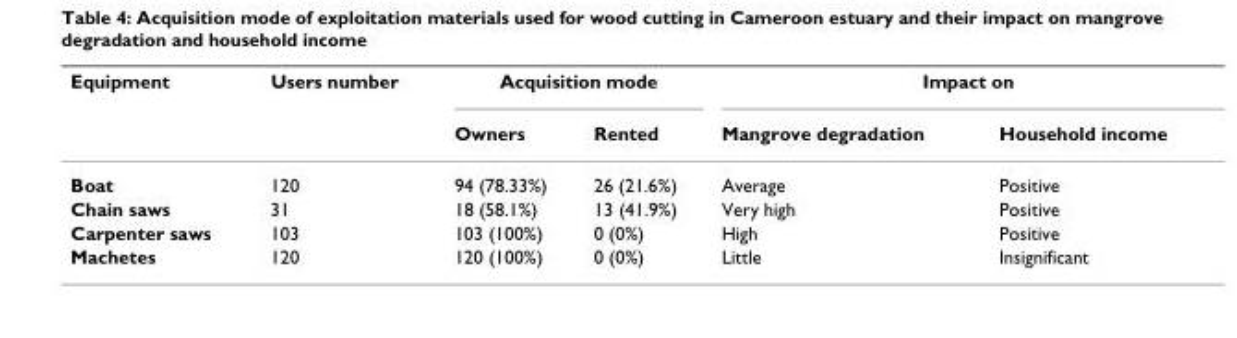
<table><thead><tr><td rowspan="2">Equipment</td><td rowspan="2">Users number</td><td colspan="2">Acquisition mode</td><td colspan="2">Impact on</td></tr><tr><td>Owners</td><td>Rented</td><td>Mangrove degradation</td><td>Household income</td></tr></thead><tbody><tr><td>Boat</td><td>120</td><td>94 (78.33%)</td><td>26 (21.6%)</td><td>Average</td><td>Positive</td></tr><tr><td>Chain saws</td><td>31</td><td>18 (58.1%)</td><td>13 (41.9%)</td><td>Very high</td><td>Positive</td></tr><tr><td>Carpenter saws</td><td>103</td><td>103 (100%)</td><td>0 (0%)</td><td>High</td><td>Positive</td></tr><tr><td>Machetes</td><td>120</td><td>120 (100%)</td><td>0 (0%)</td><td>Little</td><td>Insignificant</td></tr></tbody></table>